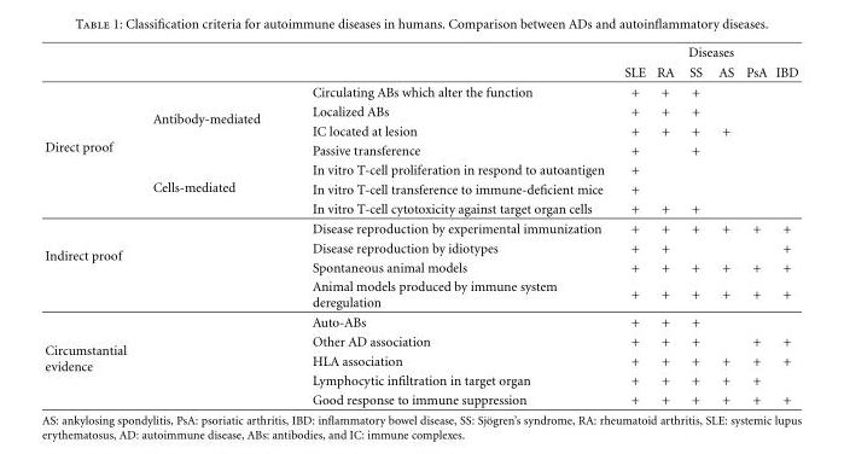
<table><thead><tr><td rowspan="2"></td><td rowspan="2"></td><td rowspan="2"></td><td colspan="6">Diseases</td></tr><tr><td>SLE</td><td>RA</td><td>SS</td><td>AS</td><td>PsA</td><td>IBD</td></tr></thead><tbody><tr><td rowspan="7">Direct proof</td><td rowspan="4">Antibody-mediated</td><td>Circulating ABs which alter the function</td><td>+</td><td>+</td><td>+</td><td></td><td></td><td></td></tr><tr><td>Localized ABs</td><td>+</td><td>+</td><td>+</td><td></td><td></td><td></td></tr><tr><td>IC located at lesion</td><td>+</td><td>+</td><td>+</td><td>+</td><td></td><td></td></tr><tr><td>Passive transference</td><td>+</td><td></td><td>+</td><td></td><td></td><td></td></tr><tr><td rowspan="3">Cells-mediated</td><td>In vitro T-cell proliferation in respond to autoantigen</td><td>+</td><td></td><td></td><td></td><td></td><td></td></tr><tr><td>In vitro T-cell transference to immune-deficient mice</td><td>+</td><td></td><td></td><td></td><td></td><td></td></tr><tr><td>In vitro T-cell cytotoxicity against target organ cells</td><td>+</td><td>+</td><td>+</td><td></td><td></td><td></td></tr><tr><td rowspan="4">Indirect proof</td><td rowspan="4"></td><td>Disease reproduction by experimental immunization</td><td>+</td><td>+</td><td>+</td><td>+</td><td>+</td><td>+</td></tr><tr><td>Disease reproduction by idiotypes</td><td>+</td><td>+</td><td></td><td></td><td></td><td>+</td></tr><tr><td>Spontaneous animal models</td><td>+</td><td>+</td><td>+</td><td>+</td><td>+</td><td>+</td></tr><tr><td>Animal models produced by immune system deregulation</td><td>+</td><td>+</td><td>+</td><td>+</td><td>+</td><td>+</td></tr><tr><td rowspan="5">Circumstantial evidence</td><td rowspan="5"></td><td>Auto-ABs</td><td>+</td><td>+</td><td>+</td><td></td><td></td><td></td></tr><tr><td>Other AD association</td><td>+</td><td>+</td><td>+</td><td></td><td>+</td><td>+</td></tr><tr><td>HLA association</td><td>+</td><td>+</td><td>+</td><td>+</td><td>+</td><td>+</td></tr><tr><td>Lymphocytic infiltration in target organ</td><td>+</td><td>+</td><td>+</td><td>+</td><td>+</td><td></td></tr><tr><td>Good response to immune suppression</td><td>+</td><td>+</td><td>+</td><td>+</td><td>+</td><td>+</td></tr></tbody></table>